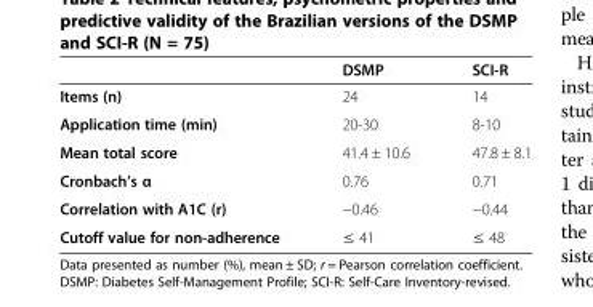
<table><thead><tr><td></td><td>DSMP</td><td>SCI-R</td></tr></thead><tbody><tr><td>Items (n)</td><td>24</td><td>14</td></tr><tr><td>Application time (min)</td><td>20-30</td><td>8-10</td></tr><tr><td>Mean total score</td><td>41.4 ± 10.6</td><td>47.8 ± 8.1</td></tr><tr><td>Cronbach’s α</td><td>0.76</td><td>0.71</td></tr><tr><td>Correlation with A1C (r)</td><td>−0.46</td><td>−0.44</td></tr><tr><td>Cutoff value for non-adherence</td><td>≤ 41</td><td>≤ 48</td></tr></tbody></table>